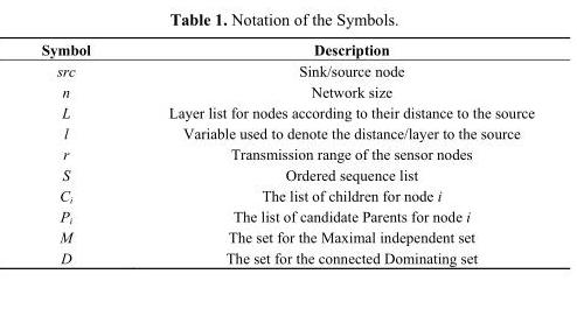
<table><thead><tr><td>Symbol</td><td>Description</td></tr></thead><tbody><tr><td>src</td><td>Sink/source node</td></tr><tr><td>n</td><td>Network size</td></tr><tr><td>L</td><td>Layer list for nodes according to their distance to the source</td></tr><tr><td>l</td><td>Variable used to denote the distance/layer to the source</td></tr><tr><td>r</td><td>Transmission range of the sensor nodes</td></tr><tr><td>S</td><td>Ordered sequence list</td></tr><tr><td>C<sub>i</sub></td><td>The list of children for node i</td></tr><tr><td>P<sub>i</sub></td><td>The list of candidate Parents for node i</td></tr><tr><td>M</td><td>The set for the Maximal independent set</td></tr><tr><td>D</td><td>The set for the connected Dominating set</td></tr></tbody></table>